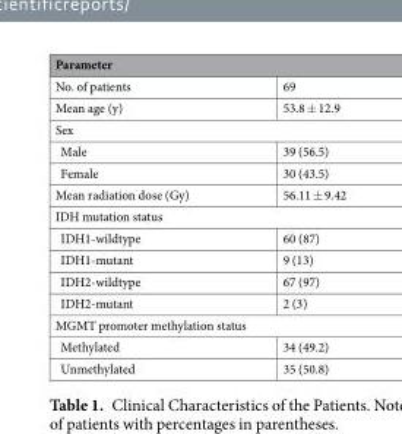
<table><thead><tr><td colspan="2">Parameter</td></tr><tr><td>No. of patients</td><td>69</td></tr></thead><tbody><tr><td>Mean age (y)</td><td>53.8 ± 12.9</td></tr><tr><td colspan="2">Sex</td></tr><tr><td>Male</td><td>39 (56.5)</td></tr><tr><td>Female</td><td>30 (43.5)</td></tr><tr><td>Mean radiation dose (Gy)</td><td>56.11 ± 9.42</td></tr><tr><td colspan="2">IDH mutation status</td></tr><tr><td>IDH1-wildtype</td><td>60 (87)</td></tr><tr><td>IDH1-mutant</td><td>9 (13)</td></tr><tr><td>IDH2-wildtype</td><td>67 (97)</td></tr><tr><td>IDH2-mutant</td><td>2 (3)</td></tr><tr><td colspan="2">MGMT promoter methylation status</td></tr><tr><td>Methylated</td><td>34 (49.2)</td></tr><tr><td>Unmethylated</td><td>35 (50.8)</td></tr></tbody></table>